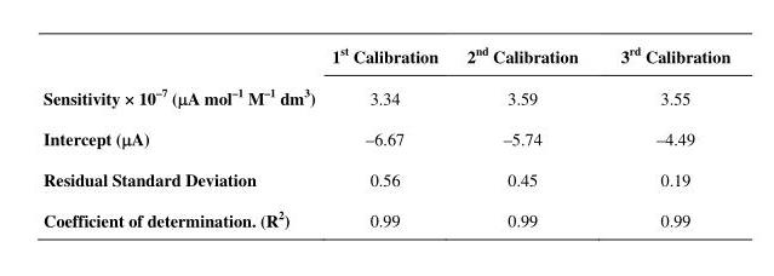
<table><thead><tr><td></td><td>1<sup>st</sup> Calibration</td><td>2<sup>nd</sup> Calibration</td><td>3<sup>rd</sup> Calibration</td></tr></thead><tbody><tr><td>Sensitivity × 10<sup>–7</sup> (μA mol<sup>–1</sup> M<sup>–1</sup> dm<sup>3</sup>)</td><td>3.34</td><td>3.59</td><td>3.55</td></tr><tr><td>Intercept (μA)</td><td>–6.67</td><td>–5.74</td><td>–4.49</td></tr><tr><td>Residual Standard Deviation</td><td>0.56</td><td>0.45</td><td>0.19</td></tr><tr><td>Coefficient of determination. (R<sup>2</sup>)</td><td>0.99</td><td>0.99</td><td>0.99</td></tr></tbody></table>